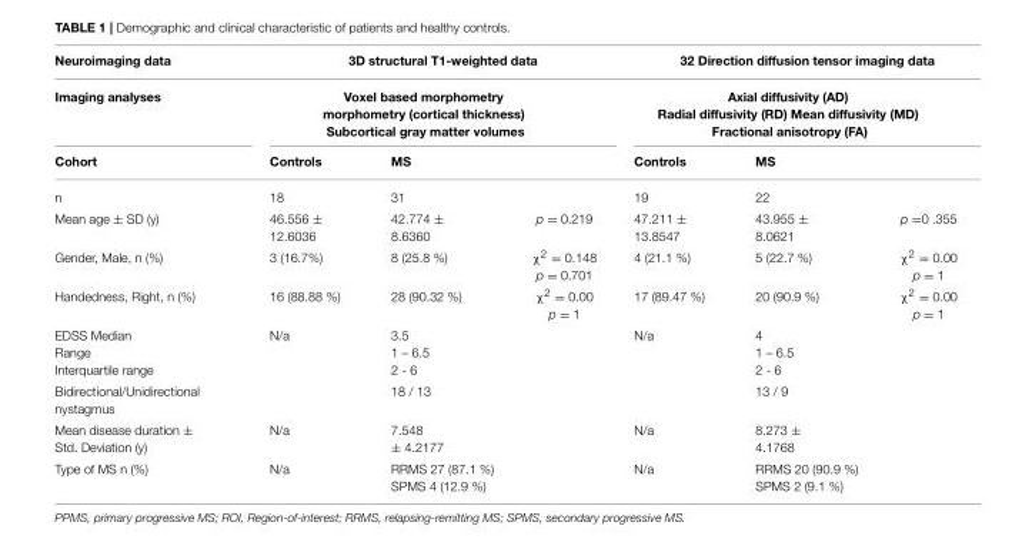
<table><thead><tr><td rowspan="3">Neuroimaging data Imaging analyses Cohort</td><td rowspan="2" colspan="3">3D structural T1-weighted data Voxel based morphometry morphometry (cortical thickness) Subcortical gray matter volumes</td><td rowspan="2" colspan="3">32 Direction diffusion tensor imaging data Axial diffusivity (AD) Radial diffusivity (RD) Mean diffusivity (MD) Fractional anisotropy (FA)</td></tr><tr></tr><tr><td>Controls</td><td>MS</td><td></td><td>Controls</td><td>MS</td><td></td></tr></thead><tbody><tr><td>n</td><td>18</td><td>31</td><td></td><td>19</td><td>22</td><td></td></tr><tr><td>Mean age ± SD (y)</td><td>46.556 ± 12.6036</td><td>42.774 ± 8.6360</td><td>p = 0.219</td><td>47.211 ± 13.8547</td><td>43.955 ± 8.0621</td><td>p =0 .355</td></tr><tr><td>Gender, Male, n (%)</td><td>3 (16.7%)</td><td>8 (25.8 %)</td><td>χ<sup>2</sup> = 0.148 p = 0.701</td><td>4 (21.1 %)</td><td>5 (22.7 %)</td><td>χ<sup>2</sup> = 0.00 p = 1</td></tr><tr><td>Handedness, Right, n (%)</td><td>16 (88.88 %)</td><td>28 (90.32 %)</td><td>χ<sup>2</sup> = 0.00 p = 1</td><td>17 (89.47 %)</td><td>20 (90.9 %)</td><td>χ<sup>2</sup> = 0.00 p = 1</td></tr><tr><td>EDSS Median Range Interquartile range</td><td>N/a</td><td>3.5 1 – 6.5 2 - 6</td><td></td><td>N/a</td><td>4 1 – 6.5 2 - 6</td><td></td></tr><tr><td>Bidirectional/Unidirectional nystagmus</td><td></td><td>18 / 13</td><td></td><td></td><td>13 / 9</td><td></td></tr><tr><td>Mean disease duration ± Std. Deviation (y)</td><td>N/a</td><td>7.548 ± 4.2177</td><td></td><td>N/a</td><td>8.273 ± 4.1768</td><td></td></tr><tr><td>Type of MS n (%)</td><td>N/a</td><td>RRMS 27 (87.1 %) SPMS 4 (12.9 %)</td><td></td><td>N/a</td><td>RRMS 20 (90.9 %) SPMS 2 (9.1 %)</td><td></td></tr></tbody></table>